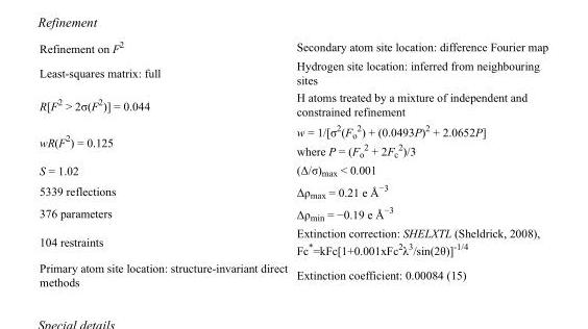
<table><tbody><tr><td>Refinement on F<sup>2</sup></td><td>Secondary atom site location: difference Fourier map</td></tr><tr><td>Least-squares matrix: full</td><td>Hydrogen site location: inferred from neighbouring sites</td></tr><tr><td>R[F<sup>2</sup> &gt; 2σ(F<sup>2</sup>)] = 0.044</td><td>H atoms treated by a mixture of independent and constrained refinement</td></tr><tr><td>wR(F<sup>2</sup>) = 0.125</td><td>w = 1/[σ<sup>2</sup>(F<sub>o</sub> <sup>2</sup>) + (0.0493P)<sup>2</sup> + 2.0652P] where P = (F<sub>o</sub> <sup>2</sup> + 2F<sub>c</sub> <sup>2</sup>)/3</td></tr><tr><td>S = 1.02</td><td>(Δ/σ)<sub>max</sub> &lt; 0.001</td></tr><tr><td>5339 reflections</td><td>Δρ<sub>max</sub> = 0.21 e Å<sup>−3</sup></td></tr><tr><td>376 parameters</td><td>Δρ<sub>min</sub> = −0.19 e Å<sup>−3</sup></td></tr><tr><td>104 restraints</td><td>Extinction correction: SHELXTL (Sheldrick, 2008), Fc*=kFc[1+0.001xFc<sup>2</sup>λ<sup>3</sup>/sin(2θ)]<sup>-1/4</sup></td></tr><tr><td>Primary atom site location: structure-invariant direct methods</td><td>Extinction coefficient: 0.00084 (15)</td></tr></tbody></table>